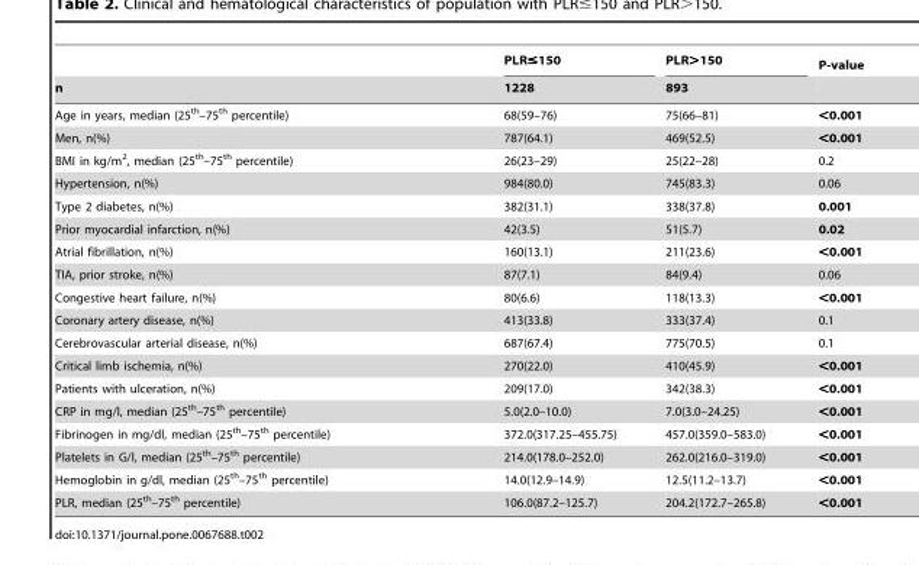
<table><thead><tr><td rowspan="2">n</td><td rowspan="2">PLR≤150 1228</td><td rowspan="2">PLR&gt;150 893</td><td rowspan="2">P-value</td></tr><tr></tr></thead><tbody><tr><td>Age in years, median (25<sup>th</sup>–75<sup>th</sup> percentile)</td><td>68(59–76)</td><td>75(66–81)</td><td>&lt;0.001</td></tr><tr><td>Men, n(%)</td><td>787(64.1)</td><td>469(52.5)</td><td>&lt;0.001</td></tr><tr><td>BMI in kg/m<sup>2</sup>, median (25<sup>th</sup>–75<sup>th</sup> percentile)</td><td>26(23–29)</td><td>25(22–28)</td><td>0.2</td></tr><tr><td>Hypertension, n(%)</td><td>984(80.0)</td><td>745(83.3)</td><td>0.06</td></tr><tr><td>Type 2 diabetes, n(%)</td><td>382(31.1)</td><td>338(37.8)</td><td>0.001</td></tr><tr><td>Prior myocardial infarction, n(%)</td><td>42(3.5)</td><td>51(5.7)</td><td>0.02</td></tr><tr><td>Atrial fibrillation, n(%)</td><td>160(13.1)</td><td>211(23.6)</td><td>&lt;0.001</td></tr><tr><td>TIA, prior stroke, n(%)</td><td>87(7.1)</td><td>84(9.4)</td><td>0.06</td></tr><tr><td>Congestive heart failure, n(%)</td><td>80(6.6)</td><td>118(13.3)</td><td>&lt;0.001</td></tr><tr><td>Coronary artery disease, n(%)</td><td>413(33.8)</td><td>333(37.4)</td><td>0.1</td></tr><tr><td>Cerebrovascular arterial disease, n(%)</td><td>687(67.4)</td><td>775(70.5)</td><td>0.1</td></tr><tr><td>Critical limb ischemia, n(%)</td><td>270(22.0)</td><td>410(45.9)</td><td>&lt;0.001</td></tr><tr><td>Patients with ulceration, n(%)</td><td>209(17.0)</td><td>342(38.3)</td><td>&lt;0.001</td></tr><tr><td>CRP in mg/l, median (25<sup>th</sup>–75<sup>th</sup> percentile)</td><td>5.0(2.0–10.0)</td><td>7.0(3.0–24.25)</td><td>&lt;0.001</td></tr><tr><td>Fibrinogen in mg/dl, median (25<sup>th</sup>–75<sup>th</sup> percentile)</td><td>372.0(317.25–455.75)</td><td>457.0(359.0–583.0)</td><td>&lt;0.001</td></tr><tr><td>Platelets in G/l, median (25<sup>th</sup>–75<sup>th</sup> percentile)</td><td>214.0(178.0–252.0)</td><td>262.0(216.0–319.0)</td><td>&lt;0.001</td></tr><tr><td>Hemoglobin in g/dl, median (25<sup>th</sup>–75<sup>th</sup> percentile)</td><td>14.0(12.9–14.9)</td><td>12.5(11.2–13.7)</td><td>&lt;0.001</td></tr><tr><td>PLR, median (25<sup>th</sup>–75<sup>th</sup> percentile)</td><td>106.0(87.2–125.7)</td><td>204.2(172.7–265.8)</td><td>&lt;0.001</td></tr></tbody></table>